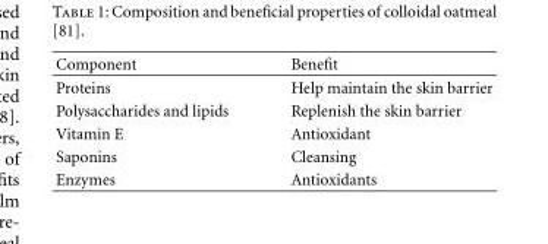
<table><thead><tr><td>Component</td><td>Benefit</td></tr></thead><tbody><tr><td>Proteins</td><td>Help maintain the skin barrier</td></tr><tr><td>Polysaccharides and lipids</td><td>Replenish the skin barrier</td></tr><tr><td>Vitamin E</td><td>Antioxidant</td></tr><tr><td>Saponins</td><td>Cleansing</td></tr><tr><td>Enzymes</td><td>Antioxidants</td></tr></tbody></table>